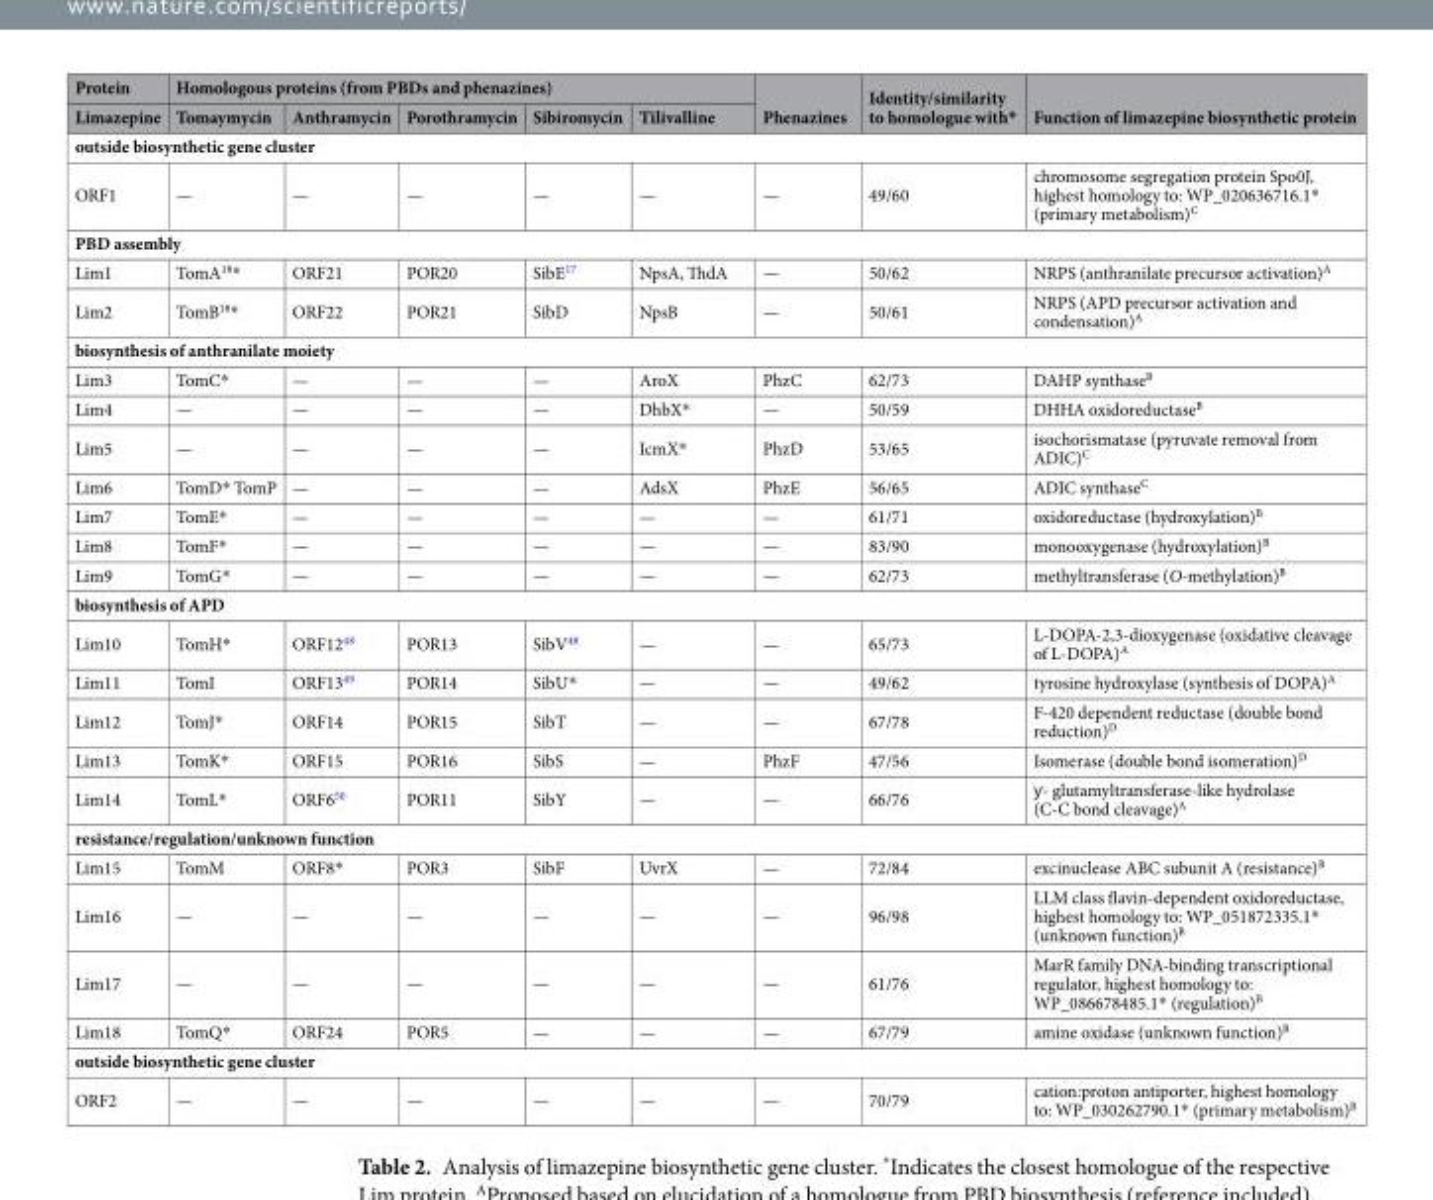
<table><thead><tr><td rowspan="2">Protein Limazepine</td><td colspan="5">Homologous proteins (from PBDs and phenazines)</td><td rowspan="2">Phenazines</td><td rowspan="2">Identity/similarity to homologue with*</td><td rowspan="2">Function of limazepine biosynthetic protein</td></tr><tr><td>Tomaymycin</td><td>Anthramycin</td><td>Porothramycin</td><td>Sibiromycin</td><td>Tilivalline</td></tr></thead><tbody><tr><td colspan="9">outside biosynthetic gene cluster</td></tr><tr><td>ORF1</td><td>—</td><td>—</td><td>—</td><td>—</td><td>—</td><td>—</td><td>49/60</td><td>chromosome segregation protein Spo0J, highest homology to: WP_020636716.1* (primary metabolism)<sup>C</sup></td></tr><tr><td colspan="9">PBD assembly</td></tr><tr><td>Lim1</td><td>TomA<sup>18</sup>*</td><td>ORF21</td><td>POR20</td><td>SibE<sup>17</sup></td><td>NpsA, ThdA</td><td>—</td><td>50/62</td><td>NRPS (anthranilate precursor activation)<sup>A</sup></td></tr><tr><td>Lim2</td><td>TomB<sup>18</sup>*</td><td>ORF22</td><td>POR21</td><td>SibD</td><td>NpsB</td><td>—</td><td>50/61</td><td>NRPS (APD precursor activation and condensation)<sup>A</sup></td></tr><tr><td colspan="9">biosynthesis of anthranilate moiety</td></tr><tr><td>Lim3</td><td>TomC*</td><td>—</td><td>—</td><td>—</td><td>AroX</td><td>PhzC</td><td>62/73</td><td>DAHP synthase<sup>B</sup></td></tr><tr><td>Lim4</td><td>—</td><td>—</td><td>—</td><td>—</td><td>DhbX*</td><td>—</td><td>50/59</td><td>DHHA oxidoreductase<sup>B</sup></td></tr><tr><td>Lim5</td><td>—</td><td>—</td><td>—</td><td>—</td><td>IcmX*</td><td>PhzD</td><td>53/65</td><td>isochorismatase (pyruvate removal from ADIC)<sup>C</sup></td></tr><tr><td>Lim6</td><td>TomD* TomP</td><td>—</td><td>—</td><td>—</td><td>AdsX</td><td>PhzE</td><td>56/65</td><td>ADIC synthase<sup>C</sup></td></tr><tr><td>Lim7</td><td>TomE*</td><td>—</td><td>—</td><td>—</td><td>—</td><td>—</td><td>61/71</td><td>oxidoreductase (hydroxylation)<sup>B</sup></td></tr><tr><td>Lim8</td><td>TomF*</td><td>—</td><td>—</td><td>—</td><td>—</td><td>—</td><td>83/90</td><td>monooxygenase (hydroxylation)<sup>B</sup></td></tr><tr><td>Lim9</td><td>TomG*</td><td>—</td><td>—</td><td>—</td><td>—</td><td>—</td><td>62/73</td><td>methyltransferase (O-methylation)<sup>B</sup></td></tr><tr><td colspan="9">biosynthesis of APD</td></tr><tr><td>Lim10</td><td>TomH*</td><td>ORF12<sup>48</sup></td><td>POR13</td><td>SibV<sup>48</sup></td><td>—</td><td>—</td><td>65/73</td><td>L-DOPA-2,3-dioxygenase (oxidative cleavage of L-DOPA)<sup>A</sup></td></tr><tr><td>Lim11</td><td>TomI</td><td>ORF13<sup>49</sup></td><td>POR14</td><td>SibU*</td><td>—</td><td>—</td><td>49/62</td><td>tyrosine hydroxylase (synthesis of DOPA)<sup>A</sup></td></tr><tr><td>Lim12</td><td>TomJ*</td><td>ORF14</td><td>POR15</td><td>SibT</td><td>—</td><td>—</td><td>67/78</td><td>F-420 dependent reductase (double bond reduction)<sup>D</sup></td></tr><tr><td>Lim13</td><td>TomK*</td><td>ORF15</td><td>POR16</td><td>SibS</td><td>—</td><td>PhzF</td><td>47/56</td><td>Isomerase (double bond isomeration)<sup>D</sup></td></tr><tr><td>Lim14</td><td>TomL*</td><td>ORF6<sup>50</sup></td><td>POR11</td><td>SibY</td><td>—</td><td>—</td><td>66/76</td><td>ƴ- glutamyltransferase-like hydrolase (C-C bond cleavage)<sup>A</sup></td></tr><tr><td colspan="9">resistance/regulation/unknown function</td></tr><tr><td>Lim15</td><td>TomM</td><td>ORF8*</td><td>POR3</td><td>SibF</td><td>UvrX</td><td>—</td><td>72/84</td><td>excinuclease ABC subunit A (resistance)<sup>B</sup></td></tr><tr><td>Lim16</td><td>—</td><td>—</td><td>—</td><td>—</td><td>—</td><td>—</td><td>96/98</td><td>LLM class flavin-dependent oxidoreductase, highest homology to: WP_051872335.1* (unknown function)<sup>B</sup></td></tr><tr><td>Lim17</td><td>—</td><td>—</td><td>—</td><td>—</td><td>—</td><td>—</td><td>61/76</td><td>MarR family DNA-binding transcriptional regulator, highest homology to: WP_086678485.1* (regulation)<sup>B</sup></td></tr><tr><td>Lim18</td><td>TomQ*</td><td>ORF24</td><td>POR5</td><td>—</td><td>—</td><td>—</td><td>67/79</td><td>amine oxidase (unknown function)<sup>B</sup></td></tr><tr><td colspan="9">outside biosynthetic gene cluster</td></tr><tr><td>ORF2</td><td>—</td><td>—</td><td>—</td><td>—</td><td>—</td><td>—</td><td>70/79</td><td>cation:proton antiporter, highest homology to: WP_030262790.1* (primary metabolism)<sup>B</sup></td></tr></tbody></table>